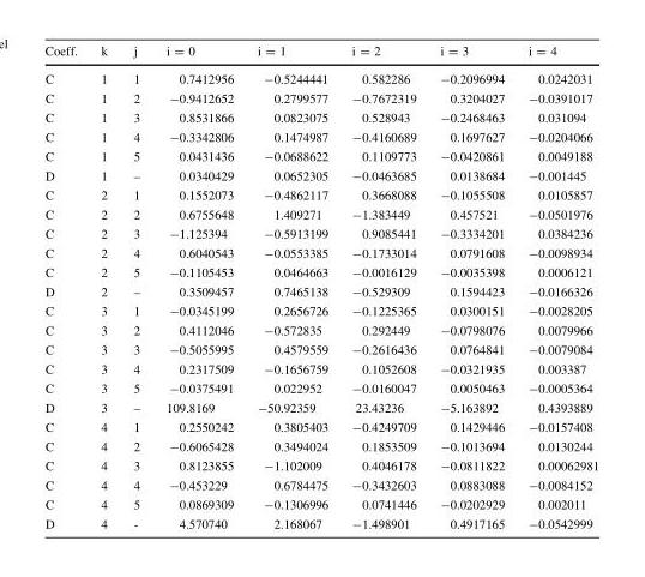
<table><thead><tr><td>Coeff.</td><td>k</td><td>j</td><td>i = 0</td><td>i = 1</td><td>i = 2</td><td>i = 3</td><td>i = 4</td></tr></thead><tbody><tr><td>C</td><td>1</td><td>1</td><td>0.7412956</td><td>-0.5244441</td><td>0.582286</td><td>-0.2096994</td><td>0.0242031</td></tr><tr><td>C</td><td>1</td><td>2</td><td>-0.9412652</td><td>0.2799577</td><td>-0.7672319</td><td>0.3204027</td><td>-0.0391017</td></tr><tr><td>C</td><td>1</td><td>3</td><td>0.8531866</td><td>0.0823075</td><td>0.528943</td><td>-0.2468463</td><td>0.031094</td></tr><tr><td>C</td><td>1</td><td>4</td><td>-0.3342806</td><td>0.1474987</td><td>-0.4160689</td><td>0.1697627</td><td>-0.0204066</td></tr><tr><td>C</td><td>1</td><td>5</td><td>0.0431436</td><td>-0.0688622</td><td>0.1109773</td><td>-0.0420861</td><td>0.0049188</td></tr><tr><td>D</td><td>1</td><td>–</td><td>0.0340429</td><td>0.0652305</td><td>-0.0463685</td><td>0.0138684</td><td>-0.001445</td></tr><tr><td>C</td><td>2</td><td>1</td><td>0.1552073</td><td>-0.4862117</td><td>0.3668088</td><td>-0.1055508</td><td>0.0105857</td></tr><tr><td>C</td><td>2</td><td>2</td><td>0.6755648</td><td>1.409271</td><td>-1.383449</td><td>0.457521</td><td>-0.0501976</td></tr><tr><td>C</td><td>2</td><td>3</td><td>-1.125394</td><td>-0.5913199</td><td>0.9085441</td><td>-0.3334201</td><td>0.0384236</td></tr><tr><td>C</td><td>2</td><td>4</td><td>0.6040543</td><td>-0.0553385</td><td>-0.1733014</td><td>0.0791608</td><td>-0.0098934</td></tr><tr><td>C</td><td>2</td><td>5</td><td>-0.1105453</td><td>0.0464663</td><td>-0.0016129</td><td>-0.0035398</td><td>0.0006121</td></tr><tr><td>D</td><td>2</td><td>–</td><td>0.3509457</td><td>0.7465138</td><td>-0.529309</td><td>0.1594423</td><td>-0.0166326</td></tr><tr><td>C</td><td>3</td><td>1</td><td>-0.0345199</td><td>0.2656726</td><td>-0.1225365</td><td>0.0300151</td><td>-0.0028205</td></tr><tr><td>C</td><td>3</td><td>2</td><td>0.4112046</td><td>-0.572835</td><td>0.292449</td><td>-0.0798076</td><td>0.0079966</td></tr><tr><td>C</td><td>3</td><td>3</td><td>-0.5055995</td><td>0.4579559</td><td>-0.2616436</td><td>0.0764841</td><td>-0.0079084</td></tr><tr><td>C</td><td>3</td><td>4</td><td>0.2317509</td><td>-0.1656759</td><td>0.1052608</td><td>-0.0321935</td><td>0.003387</td></tr><tr><td>C</td><td>3</td><td>5</td><td>-0.0375491</td><td>0.022952</td><td>-0.0160047</td><td>0.0050463</td><td>-0.0005364</td></tr><tr><td>D</td><td>3</td><td>–</td><td>109.8169</td><td>-50.92359</td><td>23.43236</td><td>-5.163892</td><td>0.4393889</td></tr><tr><td>C</td><td>4</td><td>1</td><td>0.2550242</td><td>0.3805403</td><td>-0.4249709</td><td>0.1429446</td><td>-0.0157408</td></tr><tr><td>C</td><td>4</td><td>2</td><td>-0.6065428</td><td>0.3494024</td><td>0.1853509</td><td>-0.1013694</td><td>0.0130244</td></tr><tr><td>C</td><td>4</td><td>3</td><td>0.8123855</td><td>-1.102009</td><td>0.4046178</td><td>-0.0811822</td><td>0.00062981</td></tr><tr><td>C</td><td>4</td><td>4</td><td>-0.453229</td><td>0.6784475</td><td>-0.3432603</td><td>0.0883088</td><td>-0.0084152</td></tr><tr><td>C</td><td>4</td><td>5</td><td>0.0869309</td><td>-0.1306996</td><td>0.0741446</td><td>-0.0202929</td><td>0.002011</td></tr><tr><td>D</td><td>4</td><td>-</td><td>4.570740</td><td>2.168067</td><td>-1.498901</td><td>0.4917165</td><td>-0.0542999</td></tr></tbody></table>